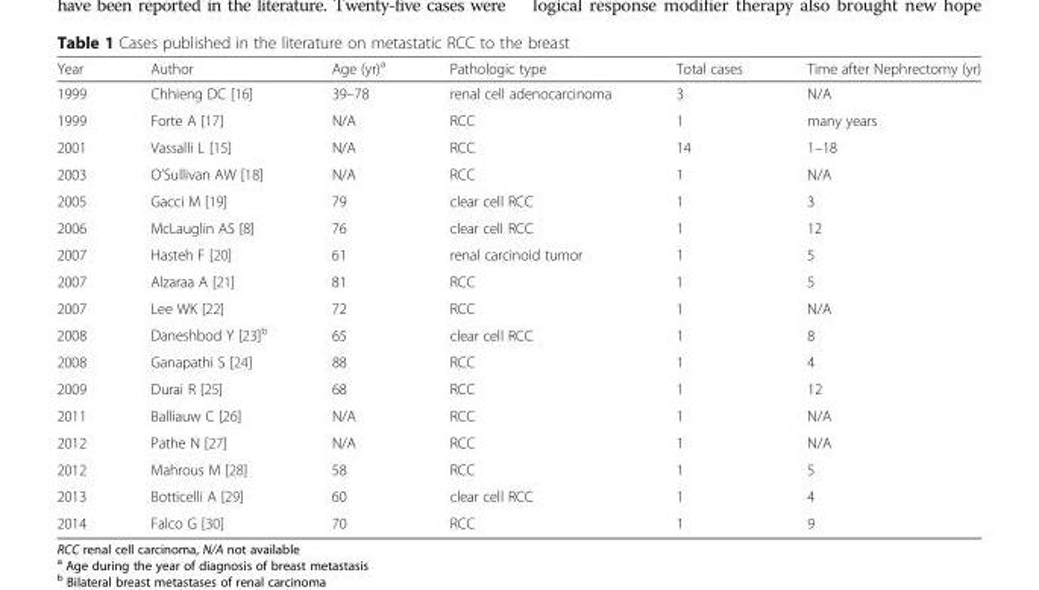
<table><thead><tr><td>Year</td><td>Author</td><td>Age (yr)<sup>a</sup></td><td>Pathologic type</td><td>Total cases</td><td>Time after Nephrectomy (yr)</td></tr></thead><tbody><tr><td>1999</td><td>Chhieng DC [16]</td><td>39–78</td><td>renal cell adenocarcinoma</td><td>3</td><td>N/A</td></tr><tr><td>1999</td><td>Forte A [17]</td><td>N/A</td><td>RCC</td><td>1</td><td>many years</td></tr><tr><td>2001</td><td>Vassalli L [15]</td><td>N/A</td><td>RCC</td><td>14</td><td>1–18</td></tr><tr><td>2003</td><td>O’Sullivan AW [18]</td><td>N/A</td><td>RCC</td><td>1</td><td>N/A</td></tr><tr><td>2005</td><td>Gacci M [19]</td><td>79</td><td>clear cell RCC</td><td>1</td><td>3</td></tr><tr><td>2006</td><td>McLauglin AS [8]</td><td>76</td><td>clear cell RCC</td><td>1</td><td>12</td></tr><tr><td>2007</td><td>Hasteh F [20]</td><td>61</td><td>renal carcinoid tumor</td><td>1</td><td>5</td></tr><tr><td>2007</td><td>Alzaraa A [21]</td><td>81</td><td>RCC</td><td>1</td><td>5</td></tr><tr><td>2007</td><td>Lee WK [22]</td><td>72</td><td>RCC</td><td>1</td><td>N/A</td></tr><tr><td>2008</td><td>Daneshbod Y [23]<sup>b</sup></td><td>65</td><td>clear cell RCC</td><td>1</td><td>8</td></tr><tr><td>2008</td><td>Ganapathi S [24]</td><td>88</td><td>RCC</td><td>1</td><td>4</td></tr><tr><td>2009</td><td>Durai R [25]</td><td>68</td><td>RCC</td><td>1</td><td>12</td></tr><tr><td>2011</td><td>Balliauw C [26]</td><td>N/A</td><td>RCC</td><td>1</td><td>N/A</td></tr><tr><td>2012</td><td>Pathe N [27]</td><td>N/A</td><td>RCC</td><td>1</td><td>N/A</td></tr><tr><td>2012</td><td>Mahrous M [28]</td><td>58</td><td>RCC</td><td>1</td><td>5</td></tr><tr><td>2013</td><td>Botticelli A [29]</td><td>60</td><td>clear cell RCC</td><td>1</td><td>4</td></tr><tr><td>2014</td><td>Falco G [30]</td><td>70</td><td>RCC</td><td>1</td><td>9</td></tr></tbody></table>